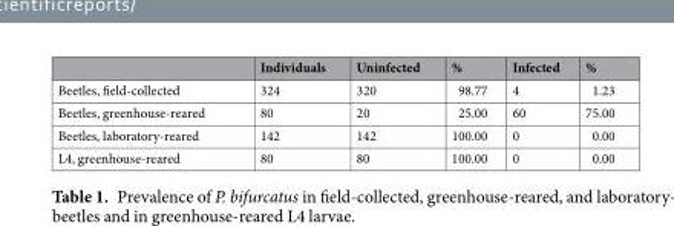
<table><thead><tr><td></td><td>Individuals</td><td>Uninfected</td><td>%</td><td>Infected</td><td>%</td></tr></thead><tbody><tr><td>Beetles, field-collected</td><td>324</td><td>320</td><td>98.77</td><td>4</td><td>1.23</td></tr><tr><td>Beetles, greenhouse-reared</td><td>80</td><td>20</td><td>25.00</td><td>60</td><td>75.00</td></tr><tr><td>Beetles, laboratory-reared</td><td>142</td><td>142</td><td>100.00</td><td>0</td><td>0.00</td></tr><tr><td>L4, greenhouse-reared</td><td>80</td><td>80</td><td>100.00</td><td>0</td><td>0.00</td></tr></tbody></table>